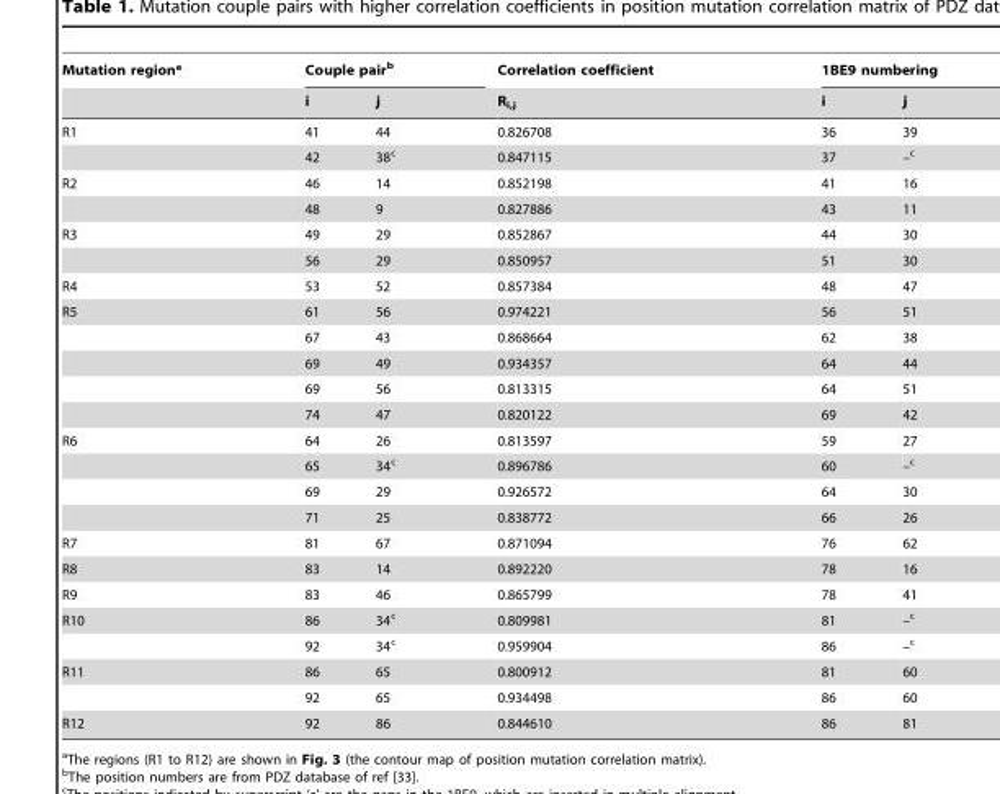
<table><thead><tr><td rowspan="2">Mutation region<sup>a</sup></td><td colspan="2">Couple pair<sup>b</sup></td><td rowspan="2">Correlation coefficient R<sub>i,j</sub></td><td colspan="2">1BE9 numbering</td></tr><tr><td>i</td><td>j</td><td>i</td><td>j</td></tr></thead><tbody><tr><td rowspan="2">R1</td><td>41</td><td>44</td><td>0.826708</td><td>36</td><td>39</td></tr><tr><td>42</td><td>38<sup>c</sup></td><td>0.847115</td><td>37</td><td>–c</td></tr><tr><td rowspan="2">R2</td><td>46</td><td>14</td><td>0.852198</td><td>41</td><td>16</td></tr><tr><td>48</td><td>9</td><td>0.827886</td><td>43</td><td>11</td></tr><tr><td rowspan="2">R3</td><td>49</td><td>29</td><td>0.852867</td><td>44</td><td>30</td></tr><tr><td>56</td><td>29</td><td>0.850957</td><td>51</td><td>30</td></tr><tr><td>R4</td><td>53</td><td>52</td><td>0.857384</td><td>48</td><td>47</td></tr><tr><td rowspan="5">R5</td><td>61</td><td>56</td><td>0.974221</td><td>56</td><td>51</td></tr><tr><td>67</td><td>43</td><td>0.868664</td><td>62</td><td>38</td></tr><tr><td>69</td><td>49</td><td>0.934357</td><td>64</td><td>44</td></tr><tr><td>69</td><td>56</td><td>0.813315</td><td>64</td><td>51</td></tr><tr><td>74</td><td>47</td><td>0.820122</td><td>69</td><td>42</td></tr><tr><td rowspan="4">R6</td><td>64</td><td>26</td><td>0.813597</td><td>59</td><td>27</td></tr><tr><td>65</td><td>34<sup>c</sup></td><td>0.896786</td><td>60</td><td>–c</td></tr><tr><td>69</td><td>29</td><td>0.926572</td><td>64</td><td>30</td></tr><tr><td>71</td><td>25</td><td>0.838772</td><td>66</td><td>26</td></tr><tr><td>R7</td><td>81</td><td>67</td><td>0.871094</td><td>76</td><td>62</td></tr><tr><td>R8</td><td>83</td><td>14</td><td>0.892220</td><td>78</td><td>16</td></tr><tr><td>R9</td><td>83</td><td>46</td><td>0.865799</td><td>78</td><td>41</td></tr><tr><td rowspan="2">R10</td><td>86</td><td>34<sup>c</sup></td><td>0.809981</td><td>81</td><td>–c</td></tr><tr><td>92</td><td>34<sup>c</sup></td><td>0.959904</td><td>86</td><td>–c</td></tr><tr><td rowspan="2">R11</td><td>86</td><td>65</td><td>0.800912</td><td>81</td><td>60</td></tr><tr><td>92</td><td>65</td><td>0.934498</td><td>86</td><td>60</td></tr><tr><td>R12</td><td>92</td><td>86</td><td>0.844610</td><td>86</td><td>81</td></tr></tbody></table>